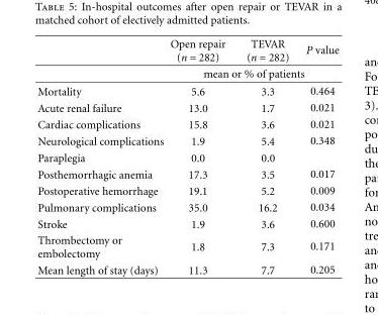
<table><thead><tr><td></td><td>Open repair (n = 282)</td><td>TEVAR (n = 282)</td><td>P value</td></tr></thead><tbody><tr><td></td><td colspan="3">mean or % of patients</td></tr><tr><td>Mortality</td><td>5.6</td><td>3.3</td><td>0.464</td></tr><tr><td>Acute renal failure</td><td>13.0</td><td>1.7</td><td>0.021</td></tr><tr><td>Cardiac complications</td><td>15.8</td><td>3.6</td><td>0.021</td></tr><tr><td>Neurological complications</td><td>1.9</td><td>5.4</td><td>0.348</td></tr><tr><td>Paraplegia</td><td>0.0</td><td>0.0</td><td></td></tr><tr><td>Posthemorrhagic anemia</td><td>17.3</td><td>3.5</td><td>0.017</td></tr><tr><td>Postoperative hemorrhage</td><td>19.1</td><td>5.2</td><td>0.009</td></tr><tr><td>Pulmonary complications</td><td>35.0</td><td>16.2</td><td>0.034</td></tr><tr><td>Stroke</td><td>1.9</td><td>3.6</td><td>0.600</td></tr><tr><td>Thrombectomy or embolectomy</td><td>1.8</td><td>7.3</td><td>0.171</td></tr><tr><td>Mean length of stay (days)</td><td>11.3</td><td>7.7</td><td>0.205</td></tr></tbody></table>